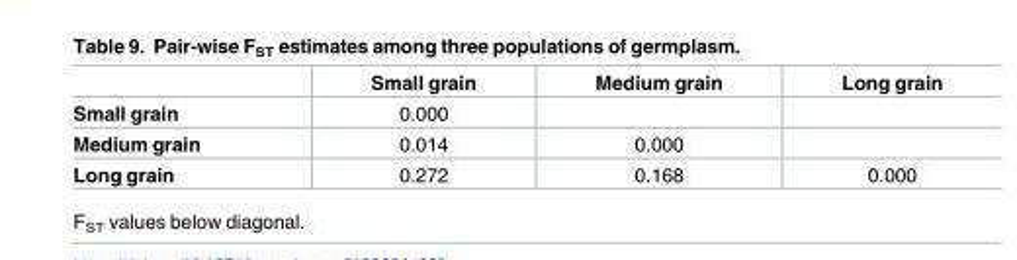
<table><thead><tr><td></td><td>Small grain</td><td>Medium grain</td><td>Long grain</td></tr></thead><tbody><tr><td>Small grain</td><td>0.000</td><td></td><td></td></tr><tr><td>Medium grain</td><td>0.014</td><td>0.000</td><td></td></tr><tr><td>Long grain</td><td>0.272</td><td>0.168</td><td>0.000</td></tr></tbody></table>